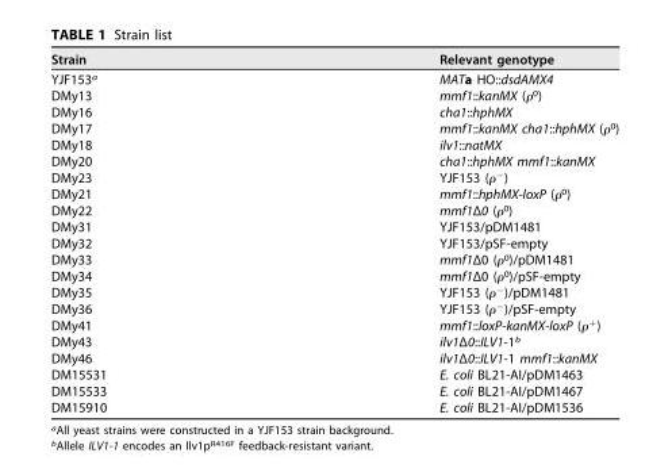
<table><thead><tr><td>Strain</td><td>Relevant genotype</td></tr></thead><tbody><tr><td>YJF153<sup>a</sup></td><td>MATa HO::dsdAMX4</td></tr><tr><td>DMy13</td><td>mmf1::kanMX (ρ<sup>0</sup>)</td></tr><tr><td>DMy16</td><td>cha1::hphMX</td></tr><tr><td>DMy17</td><td>mmf1::kanMX cha1::hphMX (ρ<sup>0</sup>)</td></tr><tr><td>DMy18</td><td>ilv1::natMX</td></tr><tr><td>DMy20</td><td>cha1::hphMX mmf1::kanMX</td></tr><tr><td>DMy23</td><td>YJF153 (ρ<sup>−</sup>)</td></tr><tr><td>DMy21</td><td>mmf1::hphMX-loxP (ρ<sup>0</sup>)</td></tr><tr><td>DMy22</td><td>mmf1Δ0 (ρ<sup>0</sup>)</td></tr><tr><td>DMy31</td><td>YJF153/pDM1481</td></tr><tr><td>DMy32</td><td>YJF153/pSF-empty</td></tr><tr><td>DMy33</td><td>mmf1Δ0 (ρ<sup>0</sup>)/pDM1481</td></tr><tr><td>DMy34</td><td>mmf1Δ0 (ρ<sup>0</sup>)/pSF-empty</td></tr><tr><td>DMy35</td><td>YJF153 (ρ<sup>−</sup>)/pDM1481</td></tr><tr><td>DMy36</td><td>YJF153 (ρ<sup>−</sup>)/pSF-empty</td></tr><tr><td>DMy41</td><td>mmf1::loxP-kanMX-loxP (ρ<sup>+</sup>)</td></tr><tr><td>DMy43</td><td>ilv1Δ0::ILV1-1<sup>b</sup></td></tr><tr><td>DMy46</td><td>ilv1Δ0::ILV1-1 mmf1::kanMX</td></tr><tr><td>DM15531</td><td>E. coli BL21-AI/pDM1463</td></tr><tr><td>DM15533</td><td>E. coli BL21-AI/pDM1467</td></tr><tr><td>DM15910</td><td>E. coli BL21-AI/pDM1536</td></tr></tbody></table>